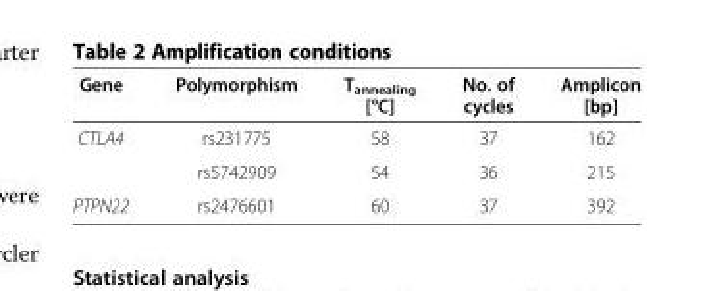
<table><thead><tr><td>Gene</td><td>Polymorphism</td><td>T<sub>annealing</sub> [°C]</td><td>No. of cycles</td><td>Amplicon [bp]</td></tr></thead><tbody><tr><td rowspan="2">CTLA4</td><td>rs231775</td><td>58</td><td>37</td><td>162</td></tr><tr><td>rs5742909</td><td>54</td><td>36</td><td>215</td></tr><tr><td>PTPN22</td><td>rs2476601</td><td>60</td><td>37</td><td>392</td></tr></tbody></table>